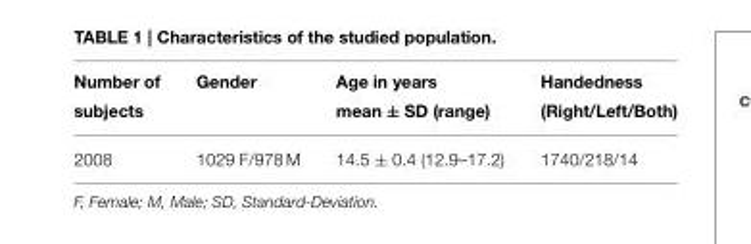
<table><thead><tr><td>Number of subjects</td><td>Gender</td><td>Age in years mean ± SD (range)</td><td>Handedness (Right/Left/Both)</td></tr></thead><tbody><tr><td>2008</td><td>1029 F/978 M</td><td>14.5 ± 0.4 (12.9–17.2)</td><td>1740/218/14</td></tr></tbody></table>